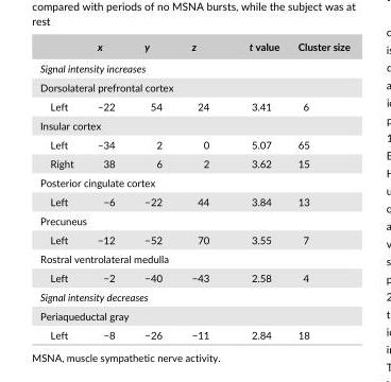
<table><thead><tr><td></td><td>x</td><td>y</td><td>z</td><td>t value</td><td>Cluster size</td></tr></thead><tbody><tr><td colspan="6">Signal intensity increases</td></tr><tr><td colspan="6">Dorsolateral prefrontal cortex</td></tr><tr><td>Left</td><td>−22</td><td>54</td><td>24</td><td>3.41</td><td>6</td></tr><tr><td colspan="6">Insular cortex</td></tr><tr><td>Left</td><td>−34</td><td>2</td><td>0</td><td>5.07</td><td>65</td></tr><tr><td>Right</td><td>38</td><td>6</td><td>2</td><td>3.62</td><td>15</td></tr><tr><td colspan="6">Posterior cingulate cortex</td></tr><tr><td>Left</td><td>−6</td><td>−22</td><td>44</td><td>3.84</td><td>13</td></tr><tr><td colspan="6">Precuneus</td></tr><tr><td>Left</td><td>−12</td><td>−52</td><td>70</td><td>3.55</td><td>7</td></tr><tr><td colspan="6">Rostral ventrolateral medulla</td></tr><tr><td>Left</td><td>−2</td><td>−40</td><td>−43</td><td>2.58</td><td>4</td></tr><tr><td colspan="6">Signal intensity decreases</td></tr><tr><td colspan="6">Periaqueductal gray</td></tr><tr><td>Left</td><td>−8</td><td>−26</td><td>−11</td><td>2.84</td><td>18</td></tr></tbody></table>